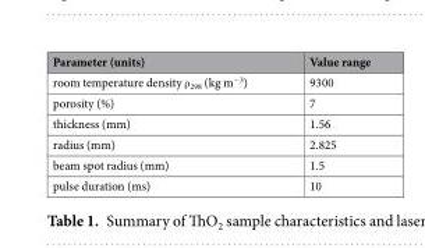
<table><thead><tr><td>Parameter (units)</td><td>Value range</td></tr></thead><tbody><tr><td>room temperature density ρ<sub>298</sub> (kg m<sup>−3</sup>)</td><td>9300</td></tr><tr><td>porosity (%)</td><td>7</td></tr><tr><td>thickness (mm)</td><td>1.56</td></tr><tr><td>radius (mm)</td><td>2.825</td></tr><tr><td>beam spot radius (mm)</td><td>1.5</td></tr><tr><td>pulse duration (ms)</td><td>10</td></tr></tbody></table>